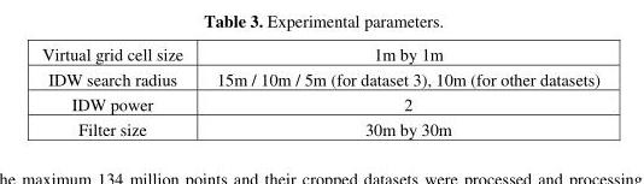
<table><tbody><tr><td>Virtual grid cell size</td><td>1m by 1m</td></tr><tr><td>IDW search radius</td><td>15m / 10m / 5m (for dataset 3), 10m (for other datasets)</td></tr><tr><td>IDW power</td><td>2</td></tr><tr><td>Filter size</td><td>30m by 30m</td></tr></tbody></table>